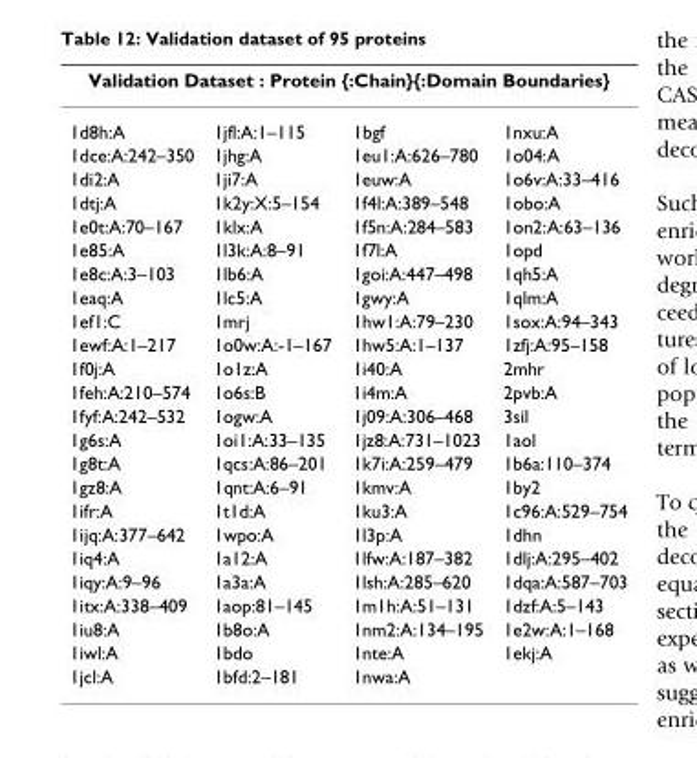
<table><thead><tr><td colspan="4">Validation Dataset : Protein {:Chain}{:Domain Boundaries}</td></tr><tr><td>1d8h:A</td><td>1jfl:A:1–115</td><td>1bgf</td><td>1nxu:A</td></tr></thead><tbody><tr><td>1dce:A:242–350</td><td>1jhg:A</td><td>1eu1:A:626–780</td><td>1o04:A</td></tr><tr><td>1di2:A</td><td>1ji7:A</td><td>1euw:A</td><td>1o6v:A:33–416</td></tr><tr><td>1dtj:A</td><td>1k2y:X:5–154</td><td>1f4l:A:389–548</td><td>1obo:A</td></tr><tr><td>1e0t:A:70–167</td><td>1klx:A</td><td>1f5n:A:284–583</td><td>1on2:A:63–136</td></tr><tr><td>1e85:A</td><td>1l3k:A:8–91</td><td>1f7l:A</td><td>1opd</td></tr><tr><td>1e8c:A:3–103</td><td>1lb6:A</td><td>1goi:A:447–498</td><td>1qh5:A</td></tr><tr><td>1eaq:A</td><td>1lc5:A</td><td>1gwy:A</td><td>1qlm:A</td></tr><tr><td>1ef1:C</td><td>1mrj</td><td>1hw1:A:79–230</td><td>1sox:A:94–343</td></tr><tr><td>1ewf:A:1–217</td><td>1o0w:A:-1–167</td><td>1hw5:A:1–137</td><td>1zfj:A:95–158</td></tr><tr><td>1f0j:A</td><td>1o1z:A</td><td>1i40:A</td><td>2mhr</td></tr><tr><td>1feh:A:210–574</td><td>1o6s:B</td><td>1i4m:A</td><td>2pvb:A</td></tr><tr><td>1fyf:A:242–532</td><td>1ogw:A</td><td>1j09:A:306–468</td><td>3sil</td></tr><tr><td>1g6s:A</td><td>1oi1:A:33–135</td><td>1jz8:A:731–1023</td><td>1aol</td></tr><tr><td>1g8t:A</td><td>1qcs:A:86–201</td><td>1k7i:A:259–479</td><td>1b6a:110–374</td></tr><tr><td>1gz8:A</td><td>1qnt:A:6–91</td><td>1kmv:A</td><td>1by2</td></tr><tr><td>1ifr:A</td><td>1t1d:A</td><td>1ku3:A</td><td>1c96:A:529–754</td></tr><tr><td>1ijq:A:377–642</td><td>1wpo:A</td><td>1l3p:A</td><td>1dhn</td></tr><tr><td>1iq4:A</td><td>1a12:A</td><td>1lfw:A:187–382</td><td>1dlj:A:295–402</td></tr><tr><td>1iqy:A:9–96</td><td>1a3a:A</td><td>1lsh:A:285–620</td><td>1dqa:A:587–703</td></tr><tr><td>1itx:A:338–409</td><td>1aop:81–145</td><td>1m1h:A:51–131</td><td>1dzf:A:5–143</td></tr><tr><td>1iu8:A</td><td>1b8o:A</td><td>1nm2:A:134–195</td><td>1e2w:A:1–168</td></tr><tr><td>1iwl:A</td><td>1bdo</td><td>1nte:A</td><td>1ekj:A</td></tr><tr><td>1jcl:A</td><td>1bfd:2–181</td><td>1nwa:A</td><td></td></tr></tbody></table>